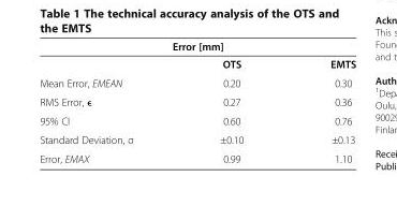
<table><thead><tr><td colspan="3">Error [mm]</td></tr><tr><td></td><td>OTS</td><td>EMTS</td></tr></thead><tbody><tr><td>Mean Error, EMEAN</td><td>0.20</td><td>0.30</td></tr><tr><td>RMS Error, ϵ</td><td>0.27</td><td>0.36</td></tr><tr><td>95% CI</td><td>0.60</td><td>0.76</td></tr><tr><td>Standard Deviation, σ</td><td>±0.10</td><td>±0.13</td></tr><tr><td>Error, EMAX</td><td>0.99</td><td>1.10</td></tr></tbody></table>